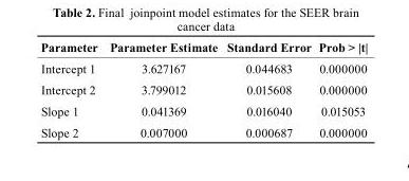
<table><thead><tr><td>Parameter</td><td>Parameter estimate</td><td>standard error</td><td>Prob &gt; |t|</td></tr></thead><tbody><tr><td>Intercept 1</td><td>3.627167</td><td>0.044683</td><td>0.000000</td></tr><tr><td>Intercept 2</td><td>3.799012</td><td>0.015608</td><td>0.000000</td></tr><tr><td>Slope 1</td><td>0.041369</td><td>0.016040</td><td>0.015053</td></tr><tr><td>Slope 2</td><td>0.007000</td><td>0.000687</td><td>0.000000</td></tr></tbody></table>